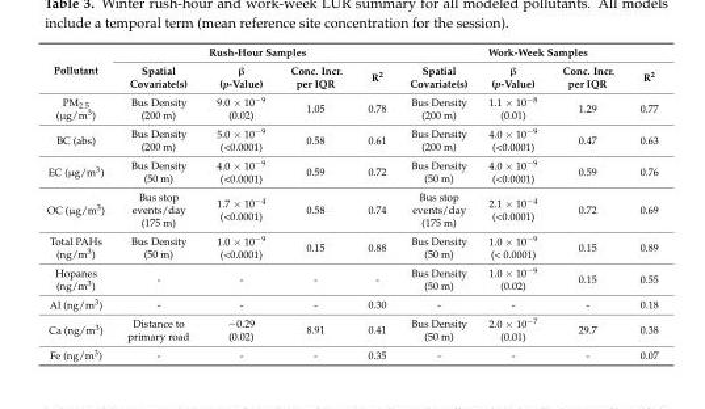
<table><thead><tr><td rowspan="2">Pollutant</td><td colspan="4">Rush-Hour Samples</td><td colspan="4">Work-Week Samples</td></tr><tr><td>Spatial Covariate(s)</td><td>β (p-Value)</td><td>Conc. Incr. per IQR</td><td>R<sup>2</sup></td><td>Spatial Covariate(s)</td><td>β (p-Value)</td><td>Conc. Incr. per IQR</td><td>R<sup>2</sup></td></tr></thead><tbody><tr><td>PM<sub>2.5</sub> (µg/m<sup>3</sup>)</td><td>Bus Density (200 m)</td><td>9.0 × 10<sup>−9</sup> (0.02)</td><td>1.05</td><td>0.78</td><td>Bus Density (200 m)</td><td>1.1 × 10<sup>−8</sup> (0.01)</td><td>1.29</td><td>0.77</td></tr><tr><td>BC (abs)</td><td>Bus Density (200 m)</td><td>5.0 × 10<sup>−9</sup> (&lt;0.0001)</td><td>0.58</td><td>0.61</td><td>Bus Density (200 m)</td><td>4.0 × 10<sup>−9</sup> (&lt;0.0001)</td><td>0.47</td><td>0.63</td></tr><tr><td>EC (µg/m<sup>3</sup>)</td><td>Bus Density (50 m)</td><td>4.0 × 10<sup>−9</sup> (&lt;0.0001)</td><td>0.59</td><td>0.72</td><td>Bus Density (50 m)</td><td>4.0 × 10<sup>−9</sup> (&lt;0.0001)</td><td>0.59</td><td>0.76</td></tr><tr><td>OC (µg/m<sup>3</sup>)</td><td>Bus stop events/day (175 m)</td><td>1.7 × 10<sup>−4</sup> (&lt;0.0001)</td><td>0.58</td><td>0.74</td><td>Bus stop events/day (175 m)</td><td>2.1 × 10<sup>−4</sup> (&lt;0.0001)</td><td>0.72</td><td>0.69</td></tr><tr><td>Total PAHs (ng/m<sup>3</sup>)</td><td>Bus Density (50 m)</td><td>1.0 × 10<sup>−9</sup> (&lt;0.0001)</td><td>0.15</td><td>0.88</td><td>Bus Density (50 m)</td><td>1.0 × 10<sup>−9</sup> (&lt; 0.0001)</td><td>0.15</td><td>0.89</td></tr><tr><td>Hopanes (ng/m<sup>3</sup>)</td><td>-</td><td>-</td><td>-</td><td>-</td><td>Bus Density (50 m)</td><td>1.0 × 10<sup>−9</sup> (0.02)</td><td>0.15</td><td>0.55</td></tr><tr><td>Al (ng/m<sup>3</sup>)</td><td>-</td><td>-</td><td>-</td><td>0.30</td><td>-</td><td>-</td><td>-</td><td>0.18</td></tr><tr><td>Ca (ng/m<sup>3</sup>)</td><td>Distance to primary road</td><td>−0.29 (0.02)</td><td>8.91</td><td>0.41</td><td>Bus Density (50 m)</td><td>2.0 × 10<sup>−7</sup> (0.01)</td><td>29.7</td><td>0.38</td></tr><tr><td>Fe (ng/m<sup>3</sup>)</td><td>-</td><td>-</td><td>-</td><td>0.35</td><td>-</td><td>-</td><td>-</td><td>0.07</td></tr></tbody></table>